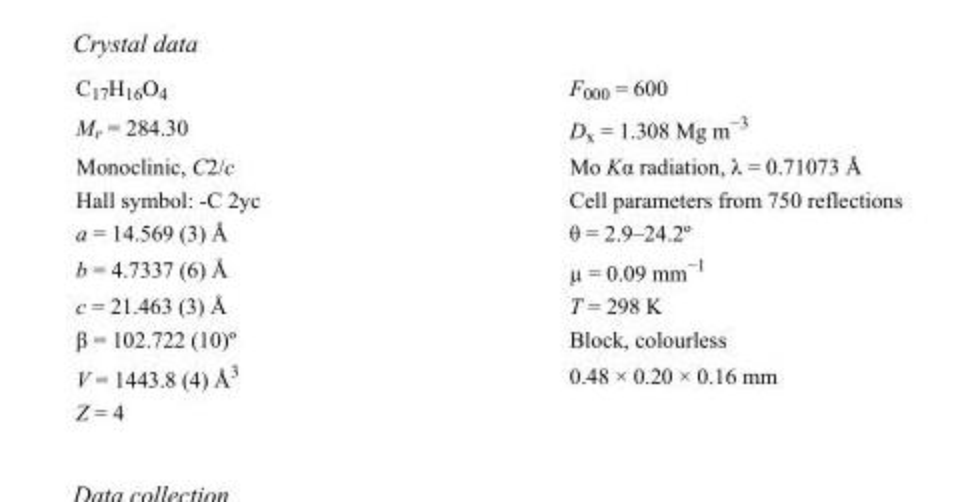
<table><tbody><tr><td>C<sub>17</sub>H<sub>16</sub>O<sub>4</sub></td><td>F000 = 600</td></tr><tr><td>M<sub>r</sub> = 284.30</td><td>D<sub>x</sub> = 1.308 Mg m<sup>−3</sup></td></tr><tr><td>Monoclinic, C2/c</td><td>Mo Kα radiation, λ = 0.71073 Å</td></tr><tr><td>Hall symbol: -C 2yc</td><td>Cell parameters from 750 reflections</td></tr><tr><td>a = 14.569 (3) Å</td><td>θ = 2.9–24.2º</td></tr><tr><td>b = 4.7337 (6) Å</td><td>µ = 0.09 mm<sup>−1</sup></td></tr><tr><td>c = 21.463 (3) Å</td><td>T = 298 K</td></tr><tr><td>β = 102.722 (10)º</td><td>Block, colourless</td></tr><tr><td>V = 1443.8 (4) Å<sup>3</sup></td><td>0.48 × 0.20 × 0.16 mm</td></tr><tr><td>Z = 4</td><td></td></tr></tbody></table>